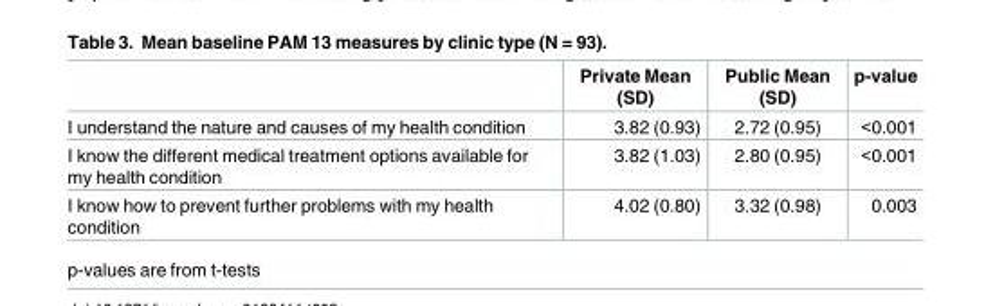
<table><thead><tr><td></td><td>Private Mean (SD)</td><td>Public Mean (SD)</td><td>p-value</td></tr></thead><tbody><tr><td>I understand the nature and causes of my health condition</td><td>3.82 (0.93)</td><td>2.72 (0.95)</td><td>&lt;0.001</td></tr><tr><td>I know the different medical treatment options available for my health condition</td><td>3.82 (1.03)</td><td>2.80 (0.95)</td><td>&lt;0.001</td></tr><tr><td>I know how to prevent further problems with my health condition</td><td>4.02 (0.80)</td><td>3.32 (0.98)</td><td>0.003</td></tr></tbody></table>